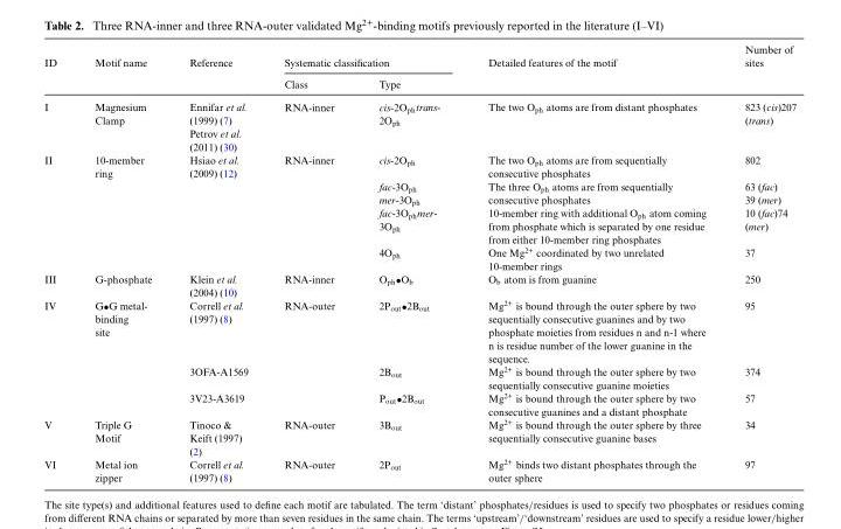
<table><thead><tr><td rowspan="2">ID</td><td rowspan="2">Motif name</td><td rowspan="2">Reference</td><td colspan="2">Systematic classification</td><td rowspan="2">Detailed features of the motif</td><td rowspan="2">Number of sites</td></tr><tr><td>Class</td><td>Type</td></tr></thead><tbody><tr><td>I</td><td>Magnesium Clamp</td><td>Ennifar et al. (1999) (7) Petrov et al. (2011) (30)</td><td>RNA-inner</td><td>cis-2O<sub>ph</sub>trans- 2O<sub>ph</sub></td><td>The two O<sub>ph</sub> atoms are from distant phosphates</td><td>823 (cis)207 (trans)</td></tr><tr><td rowspan="4">II</td><td>10-member ring</td><td>Hsiao et al. (2009) (12)</td><td>RNA-inner</td><td>cis-2O<sub>ph</sub></td><td>The two O<sub>ph</sub> atoms are from sequentially consecutive phosphates</td><td>802</td></tr><tr><td></td><td></td><td></td><td>fac-3O<sub>ph</sub> mer-3O<sub>ph</sub></td><td>The three O<sub>ph</sub> atoms are from sequentially consecutive phosphates</td><td>63 (fac) 39 (mer)</td></tr><tr><td></td><td></td><td></td><td>fac-3O<sub>ph</sub>mer- 3O<sub>ph</sub></td><td>10-member ring with additional O<sub>ph</sub> atom coming from phosphate which is separated by one residue from either 10-member ring phosphates</td><td>10 (fac)74 (mer)</td></tr><tr><td></td><td></td><td></td><td>4O<sub>ph</sub></td><td>One Mg<sup>2+</sup> coordinated by two unrelated 10-member rings</td><td>37</td></tr><tr><td>III</td><td>G-phosphate</td><td>Klein et al. (2004) (10)</td><td>RNA-inner</td><td>O<sub>ph</sub>•O<sub>b</sub></td><td>O<sub>b</sub> atom is from guanine</td><td>250</td></tr><tr><td rowspan="3">IV</td><td>G•G metal- binding site</td><td>Correll et al. (1997) (8)</td><td>RNA-outer</td><td>2P<sub>out</sub>•2B<sub>out</sub></td><td>Mg<sup>2+</sup> is bound through the outer sphere by two sequentially consecutive guanines and by two phosphate moieties from residues n and n-1 where n is residue number of the lower guanine in the sequence.</td><td>95</td></tr><tr><td></td><td>3OFA-A1569</td><td></td><td>2B<sub>out</sub></td><td>Mg<sup>2+</sup> is bound through the outer sphere by two sequentially consecutive guanine moieties</td><td>374</td></tr><tr><td></td><td>3V23-A3619</td><td></td><td>P<sub>out</sub>•2B<sub>out</sub></td><td>Mg<sup>2+</sup> is bound through the outer sphere by two consecutive guanines and a distant phosphate</td><td>57</td></tr><tr><td>V</td><td>Triple G Motif</td><td>Tinoco &amp; Keift (1997) (2)</td><td>RNA-outer</td><td>3B<sub>out</sub></td><td>Mg<sup>2+</sup> is bound through the outer sphere by three sequentially consecutive guanine bases</td><td>34</td></tr><tr><td>VI</td><td>Metal ion zipper</td><td>Correll et al. (1997) (8)</td><td>RNA-outer</td><td>2P<sub>out</sub></td><td>Mg<sup>2+</sup> binds two distant phosphates through the outer sphere</td><td>97</td></tr></tbody></table>